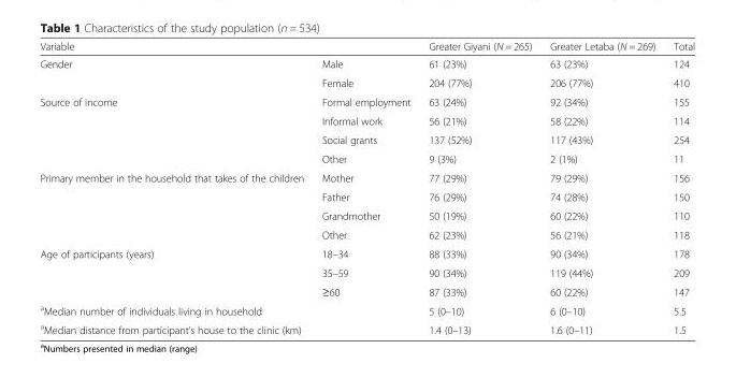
<table><thead><tr><td>Variable</td><td></td><td>Greater Giyani (N = 265)</td><td>Greater Letaba (N = 269)</td><td>Total</td></tr></thead><tbody><tr><td rowspan="2">Gender</td><td>Male</td><td>61 (23%)</td><td>63 (23%)</td><td>124</td></tr><tr><td>Female</td><td>204 (77%)</td><td>206 (77%)</td><td>410</td></tr><tr><td rowspan="4">Source of income</td><td>Formal employment</td><td>63 (24%)</td><td>92 (34%)</td><td>155</td></tr><tr><td>Informal work</td><td>56 (21%)</td><td>58 (22%)</td><td>114</td></tr><tr><td>Social grants</td><td>137 (52%)</td><td>117 (43%)</td><td>254</td></tr><tr><td>Other</td><td>9 (3%)</td><td>2 (1%)</td><td>11</td></tr><tr><td rowspan="4">Primary member in the household that takes of the children</td><td>Mother</td><td>77 (29%)</td><td>79 (29%)</td><td>156</td></tr><tr><td>Father</td><td>76 (29%)</td><td>74 (28%)</td><td>150</td></tr><tr><td>Grandmother</td><td>50 (19%)</td><td>60 (22%)</td><td>110</td></tr><tr><td>Other</td><td>62 (23%)</td><td>56 (21%)</td><td>118</td></tr><tr><td rowspan="3">Age of participants (years)</td><td>18–34</td><td>88 (33%)</td><td>90 (34%)</td><td>178</td></tr><tr><td>35–59</td><td>90 (34%)</td><td>119 (44%)</td><td>209</td></tr><tr><td>≥60</td><td>87 (33%)</td><td>60 (22%)</td><td>147</td></tr><tr><td><sup>a</sup>Median number of individuals living in household</td><td></td><td>5 (0–10)</td><td>6 (0–10)</td><td>5.5</td></tr><tr><td><sup>a</sup>Median distance from participant’s house to the clinic (km)</td><td></td><td>1.4 (0–13)</td><td>1.6 (0–11)</td><td>1.5</td></tr></tbody></table>